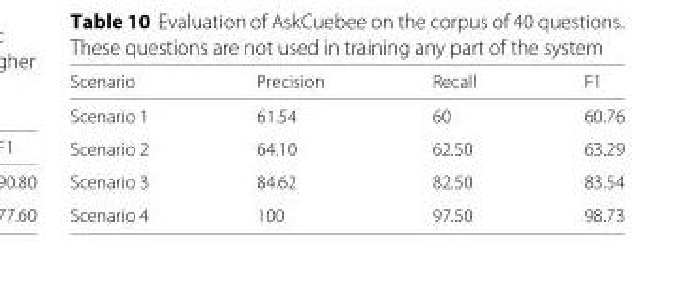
<table><thead><tr><td>Scenario</td><td>Precision</td><td>Recall</td><td>F1</td></tr></thead><tbody><tr><td>Scenario 1</td><td>61.54</td><td>60</td><td>60.76</td></tr><tr><td>Scenario 2</td><td>64.10</td><td>62.50</td><td>63.29</td></tr><tr><td>Scenario 3</td><td>84.62</td><td>82.50</td><td>83.54</td></tr><tr><td>Scenario 4</td><td>100</td><td>97.50</td><td>98.73</td></tr></tbody></table>